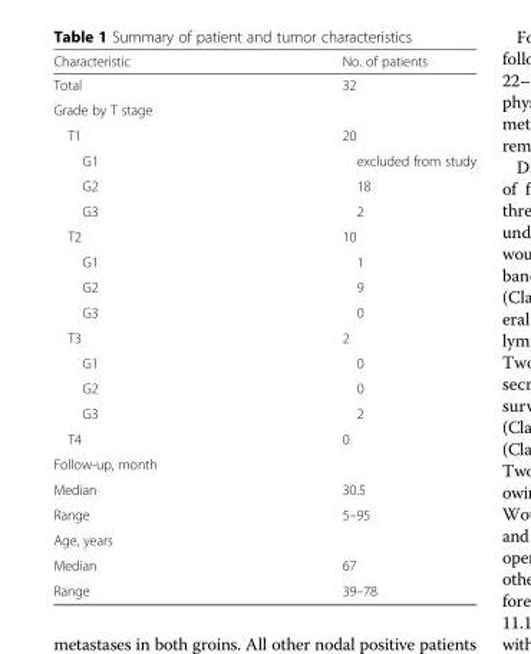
<table><thead><tr><td>Characteristic</td><td>No. of patients</td></tr></thead><tbody><tr><td>Total</td><td>32</td></tr><tr><td colspan="2">Grade by T stage</td></tr><tr><td>T1</td><td>20</td></tr><tr><td>G1</td><td>excluded from study</td></tr><tr><td>G2</td><td>18</td></tr><tr><td>G3</td><td>2</td></tr><tr><td>T2</td><td>10</td></tr><tr><td>G1</td><td>1</td></tr><tr><td>G2</td><td>9</td></tr><tr><td>G3</td><td>0</td></tr><tr><td>T3</td><td>2</td></tr><tr><td>G1</td><td>0</td></tr><tr><td>G2</td><td>0</td></tr><tr><td>G3</td><td>2</td></tr><tr><td>T4</td><td>0</td></tr><tr><td colspan="2">Follow-up, month</td></tr><tr><td>Median</td><td>30.5</td></tr><tr><td>Range</td><td>5–95</td></tr><tr><td colspan="2">Age, years</td></tr><tr><td>Median</td><td>67</td></tr><tr><td>Range</td><td>39–78</td></tr></tbody></table>